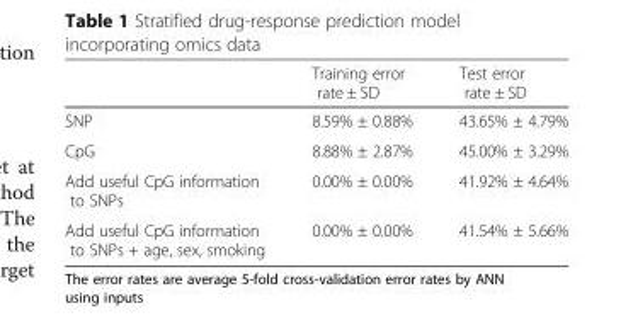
<table><thead><tr><td></td><td>Training error rate ± SD</td><td>Test error rate ± SD</td></tr></thead><tbody><tr><td>SNP</td><td>8.59% ± 0.88%</td><td>43.65% ± 4.79%</td></tr><tr><td>CpG</td><td>8.88% ± 2.87%</td><td>45.00% ± 3.29%</td></tr><tr><td>Add useful CpG information to SNPs</td><td>0.00% ± 0.00%</td><td>41.92% ± 4.64%</td></tr><tr><td>Add useful CpG information to SNPs + age, sex, smoking</td><td>0.00% ± 0.00%</td><td>41.54% ± 5.66%</td></tr></tbody></table>